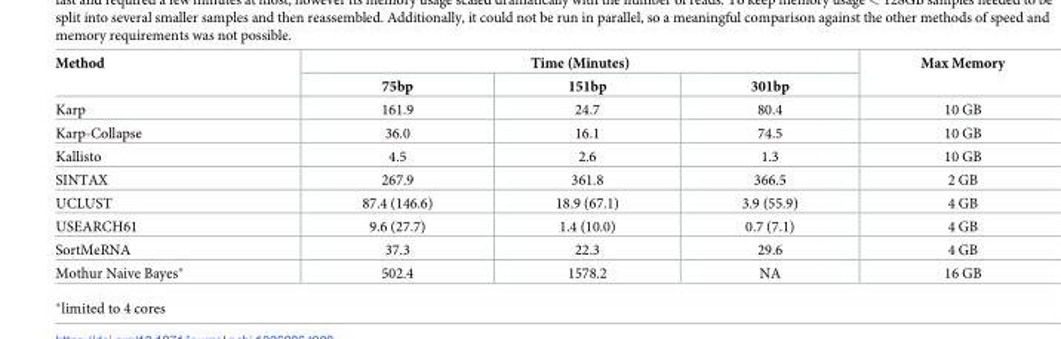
<table><thead><tr><td rowspan="2">Method</td><td colspan="3">Time (Minutes)</td><td rowspan="2">Max Memory</td></tr><tr><td>75bp</td><td>151bp</td><td>301bp</td></tr></thead><tbody><tr><td>Karp</td><td>161.9</td><td>24.7</td><td>80.4</td><td>10 GB</td></tr><tr><td>Karp-Collapse</td><td>36.0</td><td>16.1</td><td>74.5</td><td>10 GB</td></tr><tr><td>Kallisto</td><td>4.5</td><td>2.6</td><td>1.3</td><td>10 GB</td></tr><tr><td>SINTAX</td><td>267.9</td><td>361.8</td><td>366.5</td><td>2 GB</td></tr><tr><td>UCLUST</td><td>87.4 (146.6)</td><td>18.9 (67.1)</td><td>3.9 (55.9)</td><td>4 GB</td></tr><tr><td>USEARCH61</td><td>9.6 (27.7)</td><td>1.4 (10.0)</td><td>0.7 (7.1)</td><td>4 GB</td></tr><tr><td>SortMeRNA</td><td>37.3</td><td>22.3</td><td>29.6</td><td>4 GB</td></tr><tr><td>Mothur Naive Bayes*</td><td>502.4</td><td>1578.2</td><td>NA</td><td>16 GB</td></tr></tbody></table>